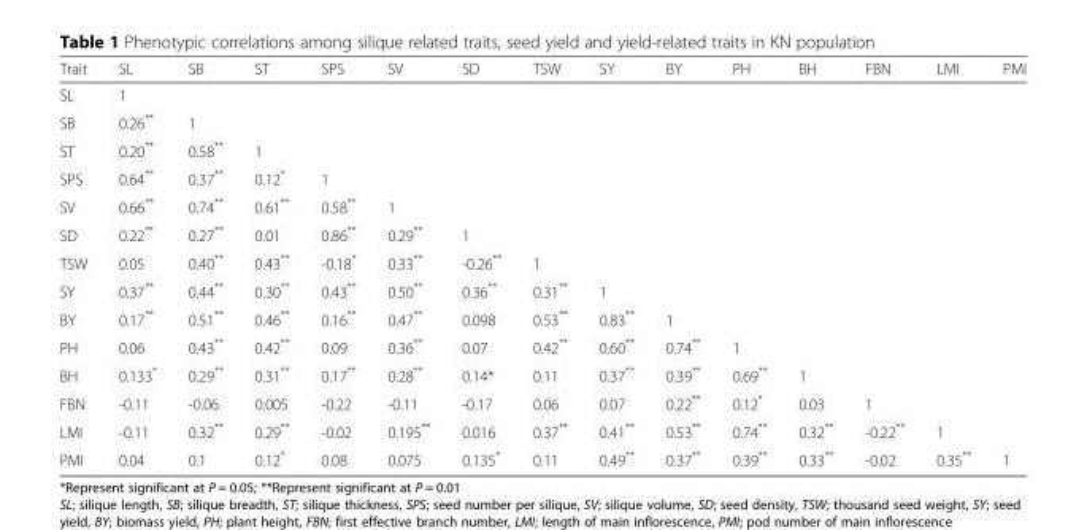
<table><thead><tr><td>Trait</td><td>SL</td><td>SB</td><td>ST</td><td>SPS</td><td>SV</td><td>SD</td><td>TSW</td><td>SY</td><td>BY</td><td>PH</td><td>BH</td><td>FBN</td><td>LMI</td><td>PMI</td></tr></thead><tbody><tr><td>SL</td><td>1</td><td></td><td></td><td></td><td></td><td></td><td></td><td></td><td></td><td></td><td></td><td></td><td></td><td></td></tr><tr><td>SB</td><td>0.26**</td><td>1</td><td></td><td></td><td></td><td></td><td></td><td></td><td></td><td></td><td></td><td></td><td></td><td></td></tr><tr><td>ST</td><td>0.20**</td><td>0.58**</td><td>1</td><td></td><td></td><td></td><td></td><td></td><td></td><td></td><td></td><td></td><td></td><td></td></tr><tr><td>SPS</td><td>0.64**</td><td>0.37**</td><td>0.12*</td><td>1</td><td></td><td></td><td></td><td></td><td></td><td></td><td></td><td></td><td></td><td></td></tr><tr><td>SV</td><td>0.66**</td><td>0.74**</td><td>0.61**</td><td>0.58**</td><td>1</td><td></td><td></td><td></td><td></td><td></td><td></td><td></td><td></td><td></td></tr><tr><td>SD</td><td>0.22**</td><td>0.27**</td><td>0.01</td><td>0.86**</td><td>0.29**</td><td>1</td><td></td><td></td><td></td><td></td><td></td><td></td><td></td><td></td></tr><tr><td>TSW</td><td>0.05</td><td>0.40**</td><td>0.43**</td><td>-0.18*</td><td>0.33**</td><td>-0.26**</td><td>1</td><td></td><td></td><td></td><td></td><td></td><td></td><td></td></tr><tr><td>SY</td><td>0.37**</td><td>0.44**</td><td>0.30**</td><td>0.43**</td><td>0.50**</td><td>0.36**</td><td>0.31**</td><td>1</td><td></td><td></td><td></td><td></td><td></td><td></td></tr><tr><td>BY</td><td>0.17**</td><td>0.51**</td><td>0.46**</td><td>0.16**</td><td>0.47**</td><td>0.098</td><td>0.53**</td><td>0.83**</td><td>1</td><td></td><td></td><td></td><td></td><td></td></tr><tr><td>PH</td><td>0.06</td><td>0.43**</td><td>0.42**</td><td>0.09</td><td>0.36**</td><td>0.07</td><td>0.42**</td><td>0.60**</td><td>0.74**</td><td>1</td><td></td><td></td><td></td><td></td></tr><tr><td>BH</td><td>0.133*</td><td>0.29**</td><td>0.31**</td><td>0.17**</td><td>0.28**</td><td>0.14*</td><td>0.11</td><td>0.37**</td><td>0.39**</td><td>0.69**</td><td>1</td><td></td><td></td><td></td></tr><tr><td>FBN</td><td>-0.11</td><td>-0.06</td><td>0.005</td><td>-0.22</td><td>-0.11</td><td>-0.17</td><td>0.06</td><td>0.07</td><td>0.22**</td><td>0.12*</td><td>0.03</td><td>1</td><td></td><td></td></tr><tr><td>LMI</td><td>-0.11</td><td>0.32**</td><td>0.29**</td><td>-0.02</td><td>0.195**</td><td>0.016</td><td>0.37**</td><td>0.41**</td><td>0.53**</td><td>0.74**</td><td>0.32**</td><td>-0.22**</td><td>1</td><td></td></tr><tr><td>PMI</td><td>0.04</td><td>0.1</td><td>0.12*</td><td>0.08</td><td>0.075</td><td>0.135*</td><td>0.11</td><td>0.49**</td><td>0.37**</td><td>0.39**</td><td>0.33**</td><td>-0.02</td><td>0.35**</td><td>1</td></tr></tbody></table>